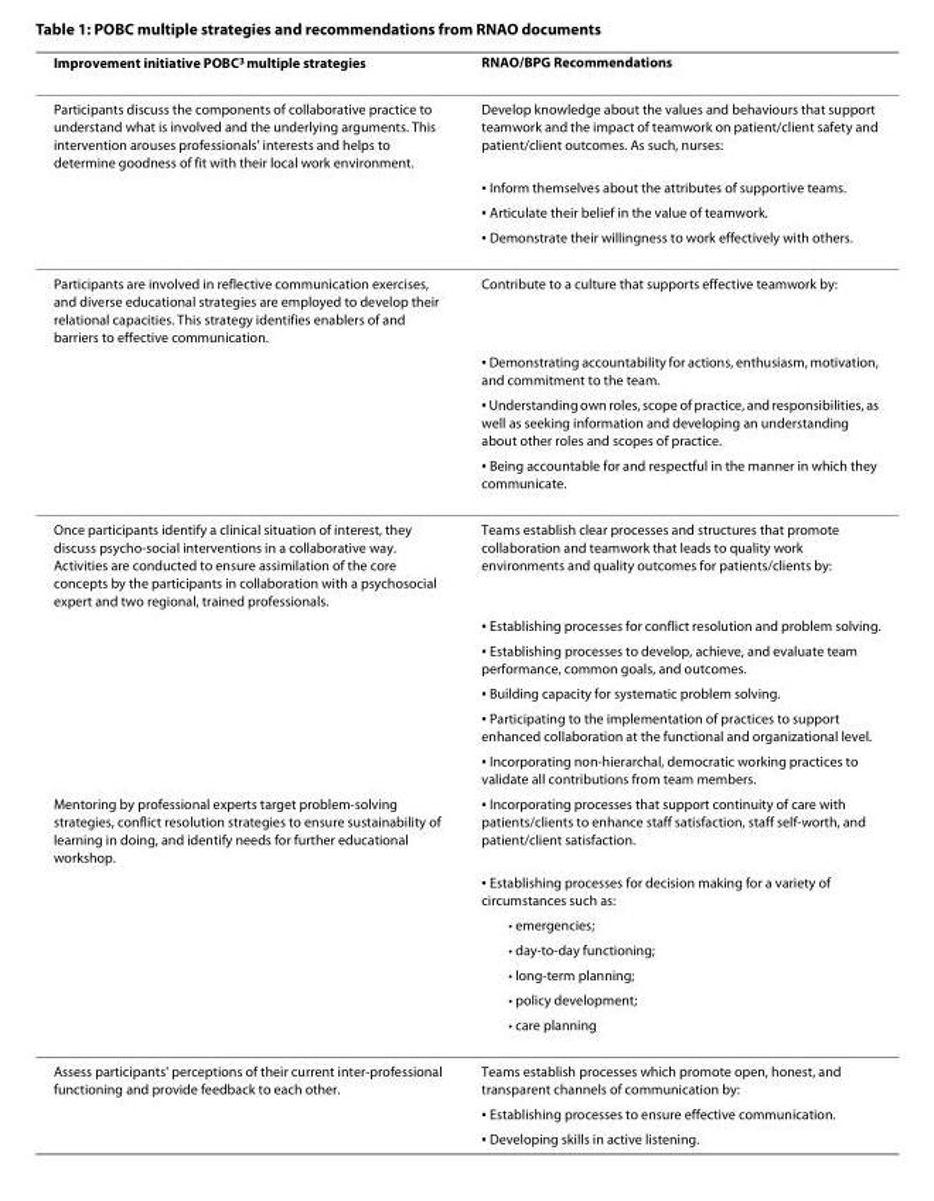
<table><thead><tr><td>Improvement initiative POBC<sup>3</sup> multiple strategies</td><td>RNAO/BPG Recommendations</td></tr></thead><tbody><tr><td rowspan="4">Participants discuss the components of collaborative practice to understand what is involved and the underlying arguments. This intervention arouses professionals&#x27; interests and helps to determine goodness of fit with their local work environment.</td><td>Develop knowledge about the values and behaviours that support teamwork and the impact of teamwork on patient/client safety and patient/client outcomes. As such, nurses:</td></tr><tr><td>▪ Inform themselves about the attributes of supportive teams.</td></tr><tr><td>▪ Articulate their belief in the value of teamwork.</td></tr><tr><td>▪ Demonstrate their willingness to work effectively with others.</td></tr><tr><td rowspan="4">Participants are involved in reflective communication exercises, and diverse educational strategies are employed to develop their relational capacities. This strategy identifies enablers of and barriers to effective communication.</td><td>Contribute to a culture that supports effective teamwork by:</td></tr><tr><td>▪ Demonstrating accountability for actions, enthusiasm, motivation, and commitment to the team.</td></tr><tr><td>▪ Understanding own roles, scope of practice, and responsibilities, as well as seeking information and developing an understanding about other roles and scopes of practice.</td></tr><tr><td>▪ Being accountable for and respectful in the manner in which they communicate.</td></tr><tr><td rowspan="6">Once participants identify a clinical situation of interest, they discuss psycho-social interventions in a collaborative way. Activities are conducted to ensure assimilation of the core concepts by the participants in collaboration with a psychosocial expert and two regional, trained professionals.</td><td>Teams establish clear processes and structures that promote collaboration and teamwork that leads to quality work environments and quality outcomes for patients/clients by:</td></tr><tr><td>▪ Establishing processes for conflict resolution and problem solving.</td></tr><tr><td>▪ Establishing processes to develop, achieve, and evaluate team performance, common goals, and outcomes.</td></tr><tr><td>▪ Building capacity for systematic problem solving.</td></tr><tr><td>▪ Participating to the implementation of practices to support enhanced collaboration at the functional and organizational level.</td></tr><tr><td>▪ Incorporating non-hierarchal, democratic working practices to validate all contributions from team members.</td></tr><tr><td rowspan="7">Mentoring by professional experts target problem-solving strategies, conflict resolution strategies to ensure sustainability of learning in doing, and identify needs for further educational workshop.</td><td>▪ Incorporating processes that support continuity of care with patients/clients to enhance staff satisfaction, staff self-worth, and patient/client satisfaction.</td></tr><tr><td>▪ Establishing processes for decision making for a variety of circumstances such as:</td></tr><tr><td>• emergencies;</td></tr><tr><td>• day-to-day functioning;</td></tr><tr><td>• long-term planning;</td></tr><tr><td>• policy development;</td></tr><tr><td>• care planning</td></tr><tr><td rowspan="3">Assess participants&#x27; perceptions of their current inter-professional functioning and provide feedback to each other.</td><td>Teams establish processes which promote open, honest, and transparent channels of communication by:</td></tr><tr><td>▪ Establishing processes to ensure effective communication.</td></tr><tr><td>▪ Developing skills in active listening.</td></tr></tbody></table>